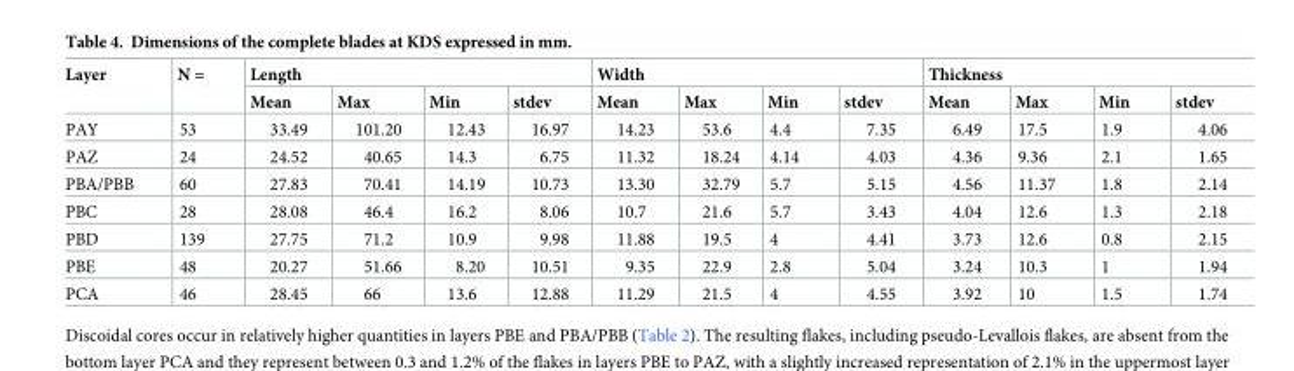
<table><thead><tr><td rowspan="2">Layer</td><td rowspan="2">N =</td><td colspan="4">Length</td><td colspan="4">Width</td><td colspan="4">Thickness</td></tr><tr><td>Mean</td><td>Max</td><td>Min</td><td>stdev</td><td>Mean</td><td>Max</td><td>Min</td><td>stdev</td><td>Mean</td><td>Max</td><td>Min</td><td>stdev</td></tr></thead><tbody><tr><td>PAY</td><td>53</td><td>33.49</td><td>101.20</td><td>12.43</td><td>16.97</td><td>14.23</td><td>53.6</td><td>4.4</td><td>7.35</td><td>6.49</td><td>17.5</td><td>1.9</td><td>4.06</td></tr><tr><td>PAZ</td><td>24</td><td>24.52</td><td>40.65</td><td>14.3</td><td>6.75</td><td>11.32</td><td>18.24</td><td>4.14</td><td>4.03</td><td>4.36</td><td>9.36</td><td>2.1</td><td>1.65</td></tr><tr><td>PBA/PBB</td><td>60</td><td>27.83</td><td>70.41</td><td>14.19</td><td>10.73</td><td>13.30</td><td>32.79</td><td>5.7</td><td>5.15</td><td>4.56</td><td>11.37</td><td>1.8</td><td>2.14</td></tr><tr><td>PBC</td><td>28</td><td>28.08</td><td>46.4</td><td>16.2</td><td>8.06</td><td>10.7</td><td>21.6</td><td>5.7</td><td>3.43</td><td>4.04</td><td>12.6</td><td>1.3</td><td>2.18</td></tr><tr><td>PBD</td><td>139</td><td>27.75</td><td>71.2</td><td>10.9</td><td>9.98</td><td>11.88</td><td>19.5</td><td>4</td><td>4.41</td><td>3.73</td><td>12.6</td><td>0.8</td><td>2.15</td></tr><tr><td>PBE</td><td>48</td><td>20.27</td><td>51.66</td><td>8.20</td><td>10.51</td><td>9.35</td><td>22.9</td><td>2.8</td><td>5.04</td><td>3.24</td><td>10.3</td><td>1</td><td>1.94</td></tr><tr><td>PCA</td><td>46</td><td>28.45</td><td>66</td><td>13.6</td><td>12.88</td><td>11.29</td><td>21.5</td><td>4</td><td>4.55</td><td>3.92</td><td>10</td><td>1.5</td><td>1.74</td></tr></tbody></table>